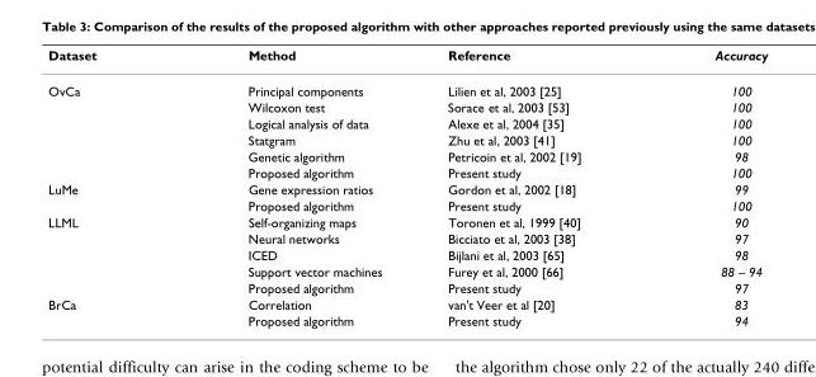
<table><thead><tr><td>Dataset</td><td>Method</td><td>Reference</td><td>Accuracy</td></tr></thead><tbody><tr><td rowspan="6">OvCa</td><td>Principal components</td><td>Lilien et al, 2003 [25]</td><td>100</td></tr><tr><td>Wilcoxon test</td><td>Sorace et al, 2003 [53]</td><td>100</td></tr><tr><td>Logical analysis of data</td><td>Alexe et al, 2004 [35]</td><td>100</td></tr><tr><td>Statgram</td><td>Zhu et al, 2003 [41]</td><td>100</td></tr><tr><td>Genetic algorithm</td><td>Petricoin et al, 2002 [19]</td><td>98</td></tr><tr><td>Proposed algorithm</td><td>Present study</td><td>100</td></tr><tr><td rowspan="2">LuMe</td><td>Gene expression ratios</td><td>Gordon et al, 2002 [18]</td><td>99</td></tr><tr><td>Proposed algorithm</td><td>Present study</td><td>100</td></tr><tr><td rowspan="5">LLML</td><td>Self-organizing maps</td><td>Toronen et al, 1999 [40]</td><td>90</td></tr><tr><td>Neural networks</td><td>Bicciato et al, 2003 [38]</td><td>97</td></tr><tr><td>ICED</td><td>Bijlani et al, 2003 [65]</td><td>98</td></tr><tr><td>Support vector machines</td><td>Furey et al, 2000 [66]</td><td>88 – 94</td></tr><tr><td>Proposed algorithm</td><td>Present study</td><td>97</td></tr><tr><td rowspan="2">BrCa</td><td>Correlation</td><td>van&#x27;t Veer et al [20]</td><td>83</td></tr><tr><td>Proposed algorithm</td><td>Present study</td><td>94</td></tr></tbody></table>